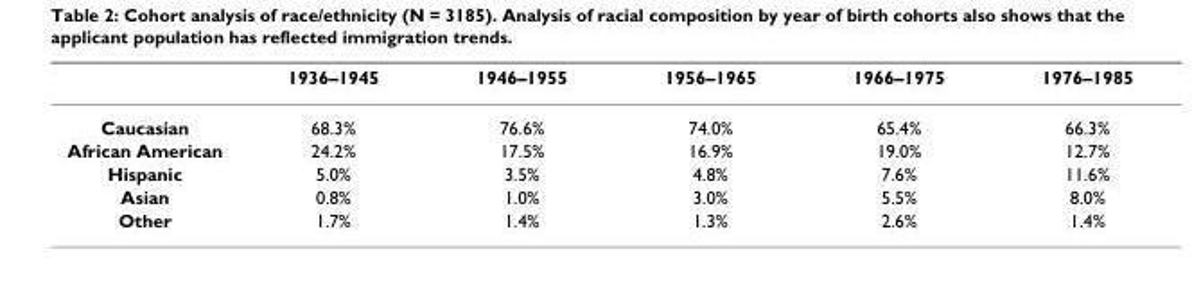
<table><thead><tr><td></td><td>1936–1945</td><td>1946–1955</td><td>1956–1965</td><td>1966–1975</td><td>1976–1985</td></tr></thead><tbody><tr><td>Caucasian</td><td>68.3%</td><td>76.6%</td><td>74.0%</td><td>65.4%</td><td>66.3%</td></tr><tr><td>African American</td><td>24.2%</td><td>17.5%</td><td>16.9%</td><td>19.0%</td><td>12.7%</td></tr><tr><td>Hispanic</td><td>5.0%</td><td>3.5%</td><td>4.8%</td><td>7.6%</td><td>11.6%</td></tr><tr><td>Asian</td><td>0.8%</td><td>1.0%</td><td>3.0%</td><td>5.5%</td><td>8.0%</td></tr><tr><td>Other</td><td>1.7%</td><td>1.4%</td><td>1.3%</td><td>2.6%</td><td>1.4%</td></tr></tbody></table>